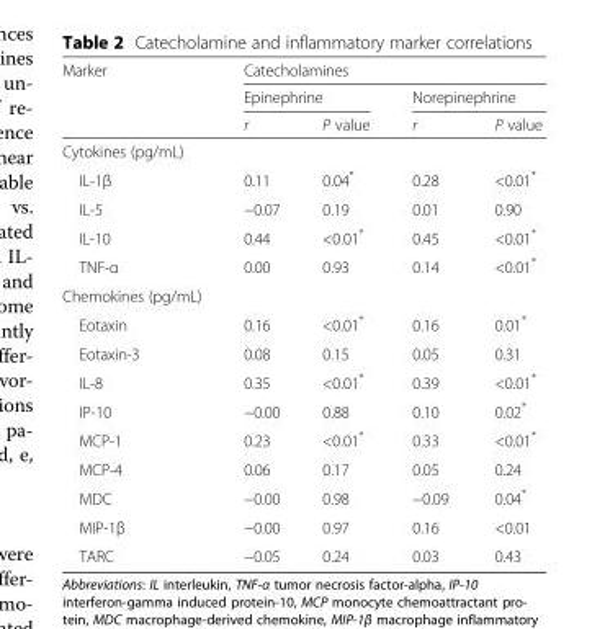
<table><thead><tr><td rowspan="3">Marker</td><td colspan="4">Catecholamines</td></tr><tr><td colspan="2">Epinephrine</td><td colspan="2">Norepinephrine</td></tr><tr><td>r</td><td>P value</td><td>r</td><td>P value</td></tr></thead><tbody><tr><td colspan="5">Cytokines (pg/mL)</td></tr><tr><td>IL-1β</td><td>0.11</td><td>0.04*</td><td>0.28</td><td>&lt;0.01*</td></tr><tr><td>IL-5</td><td>−0.07</td><td>0.19</td><td>0.01</td><td>0.90</td></tr><tr><td>IL-10</td><td>0.44</td><td>&lt;0.01*</td><td>0.45</td><td>&lt;0.01*</td></tr><tr><td>TNF-α</td><td>0.00</td><td>0.93</td><td>0.14</td><td>&lt;0.01*</td></tr><tr><td colspan="5">Chemokines (pg/mL)</td></tr><tr><td>Eotaxin</td><td>0.16</td><td>&lt;0.01*</td><td>0.16</td><td>0.01*</td></tr><tr><td>Eotaxin-3</td><td>0.08</td><td>0.15</td><td>0.05</td><td>0.31</td></tr><tr><td>IL-8</td><td>0.35</td><td>&lt;0.01*</td><td>0.39</td><td>&lt;0.01*</td></tr><tr><td>IP-10</td><td>−0.00</td><td>0.88</td><td>0.10</td><td>0.02*</td></tr><tr><td>MCP-1</td><td>0.23</td><td>&lt;0.01*</td><td>0.33</td><td>&lt;0.01*</td></tr><tr><td>MCP-4</td><td>0.06</td><td>0.17</td><td>0.05</td><td>0.24</td></tr><tr><td>MDC</td><td>−0.00</td><td>0.98</td><td>−0.09</td><td>0.04*</td></tr><tr><td>MIP-1β</td><td>−0.00</td><td>0.97</td><td>0.16</td><td>&lt;0.01</td></tr><tr><td>TARC</td><td>−0.05</td><td>0.24</td><td>0.03</td><td>0.43</td></tr></tbody></table>